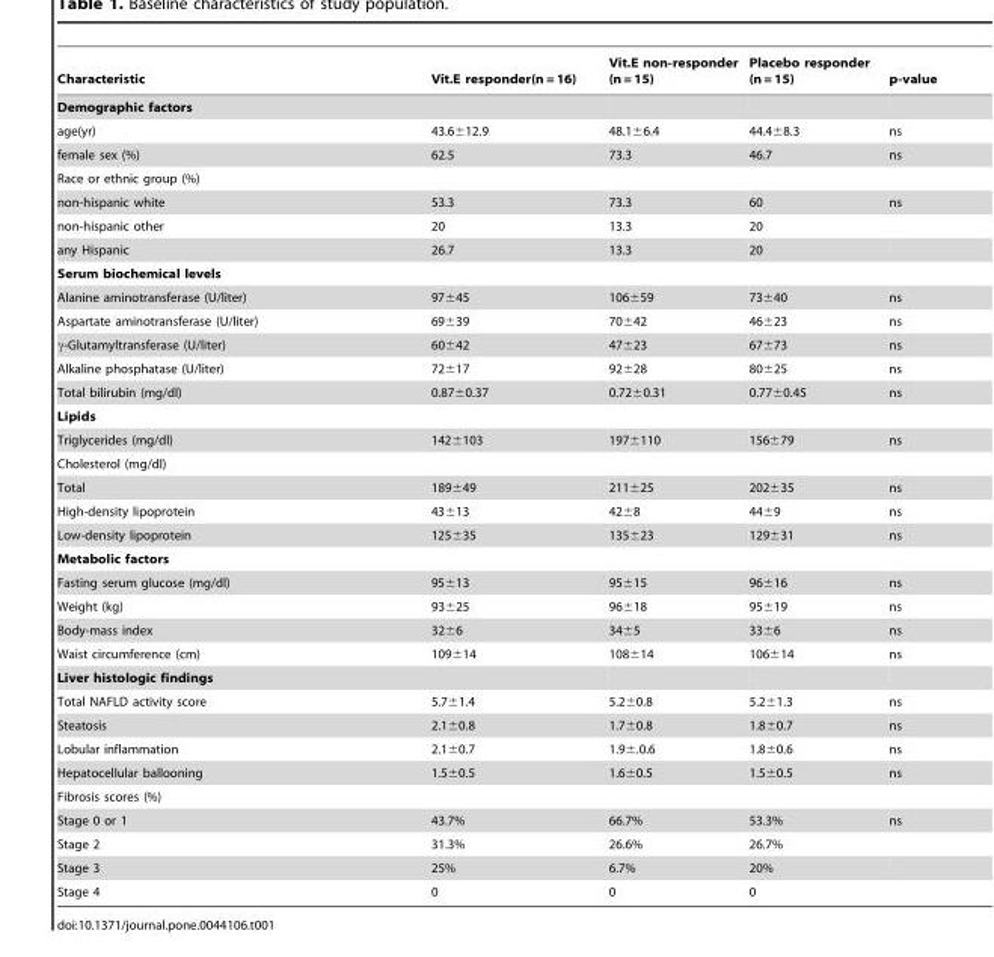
<table><thead><tr><td>Characteristic</td><td>Vit.E responder(n = 16)</td><td>Vit.E non-responder (n = 15)</td><td>Placebo responder (n = 15)</td><td>p-value</td></tr></thead><tbody><tr><td colspan="5">Demographic factors</td></tr><tr><td>age(yr)</td><td>43.6±12.9</td><td>48.1±6.4</td><td>44.4±8.3</td><td>ns</td></tr><tr><td>female sex (%)</td><td>62.5</td><td>73.3</td><td>46.7</td><td>ns</td></tr><tr><td colspan="5">Race or ethnic group (%)</td></tr><tr><td>non-hispanic white</td><td>53.3</td><td>73.3</td><td>60</td><td>ns</td></tr><tr><td>non-hispanic other</td><td>20</td><td>13.3</td><td>20</td><td></td></tr><tr><td>any Hispanic</td><td>26.7</td><td>13.3</td><td>20</td><td></td></tr><tr><td colspan="5">Serum biochemical levels</td></tr><tr><td>Alanine aminotransferase (U/liter)</td><td>97±45</td><td>106±59</td><td>73±40</td><td>ns</td></tr><tr><td>Aspartate aminotransferase (U/liter)</td><td>69±39</td><td>70±42</td><td>46±23</td><td>ns</td></tr><tr><td>γ-Glutamyltransferase (U/liter)</td><td>60±42</td><td>47±23</td><td>67±73</td><td>ns</td></tr><tr><td>Alkaline phosphatase (U/liter)</td><td>72±17</td><td>92±28</td><td>80±25</td><td>ns</td></tr><tr><td>Total bilirubin (mg/dl)</td><td>0.87±0.37</td><td>0.72±0.31</td><td>0.77±0.45</td><td>ns</td></tr><tr><td colspan="5">Lipids</td></tr><tr><td>Triglycerides (mg/dl)</td><td>142±103</td><td>197±110</td><td>156±79</td><td>ns</td></tr><tr><td colspan="5">Cholesterol (mg/dl)</td></tr><tr><td>Total</td><td>189±49</td><td>211±25</td><td>202±35</td><td>ns</td></tr><tr><td>High-density lipoprotein</td><td>43±13</td><td>42±8</td><td>44±9</td><td>ns</td></tr><tr><td>Low-density lipoprotein</td><td>125±35</td><td>135±23</td><td>129±31</td><td>ns</td></tr><tr><td colspan="5">Metabolic factors</td></tr><tr><td>Fasting serum glucose (mg/dl)</td><td>95±13</td><td>95±15</td><td>96±16</td><td>ns</td></tr><tr><td>Weight (kg)</td><td>93±25</td><td>96±18</td><td>95±19</td><td>ns</td></tr><tr><td>Body-mass index</td><td>32±6</td><td>34±5</td><td>33±6</td><td>ns</td></tr><tr><td>Waist circumference (cm)</td><td>109±14</td><td>108±14</td><td>106±14</td><td>ns</td></tr><tr><td colspan="5">Liver histologic findings</td></tr><tr><td>Total NAFLD activity score</td><td>5.7±1.4</td><td>5.2±0.8</td><td>5.2±1.3</td><td>ns</td></tr><tr><td>Steatosis</td><td>2.1±0.8</td><td>1.7±0.8</td><td>1.8±0.7</td><td>ns</td></tr><tr><td>Lobular inflammation</td><td>2.1±0.7</td><td>1.9±.0.6</td><td>1.8±0.6</td><td>ns</td></tr><tr><td>Hepatocellular ballooning</td><td>1.5±0.5</td><td>1.6±0.5</td><td>1.5±0.5</td><td>ns</td></tr><tr><td colspan="5">Fibrosis scores (%)</td></tr><tr><td>Stage 0 or 1</td><td>43.7%</td><td>66.7%</td><td>53.3%</td><td>ns</td></tr><tr><td>Stage 2</td><td>31.3%</td><td>26.6%</td><td>26.7%</td><td></td></tr><tr><td>Stage 3</td><td>25%</td><td>6.7%</td><td>20%</td><td></td></tr><tr><td>Stage 4</td><td>0</td><td>0</td><td>0</td><td></td></tr></tbody></table>